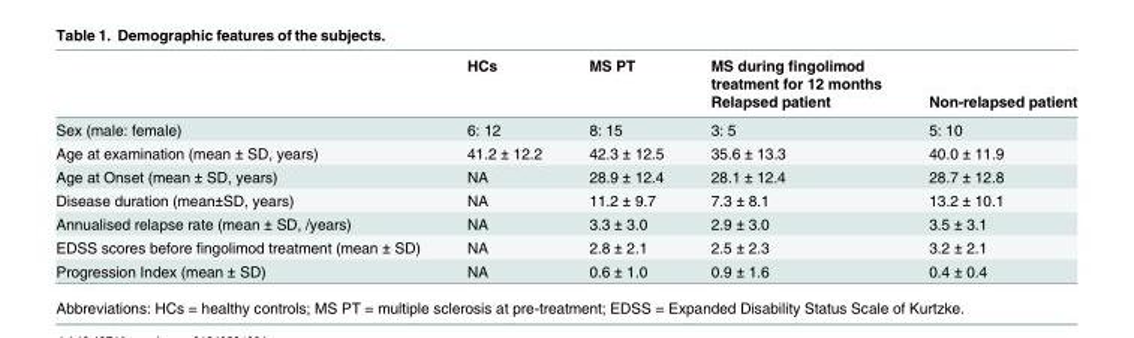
<table><thead><tr><td rowspan="2"></td><td rowspan="2">HCs</td><td rowspan="2">MS PT</td><td rowspan="2">MS during fingolimod treatment for 12 months Relapsed patient</td><td rowspan="2">Non-relapsed patient</td></tr><tr></tr></thead><tbody><tr><td>Sex (male: female)</td><td>6: 12</td><td>8: 15</td><td>3: 5</td><td>5: 10</td></tr><tr><td>Age at examination (mean ± SD, years)</td><td>41.2 ± 12.2</td><td>42.3 ± 12.5</td><td>35.6 ± 13.3</td><td>40.0 ± 11.9</td></tr><tr><td>Age at Onset (mean ± SD, years)</td><td>NA</td><td>28.9 ± 12.4</td><td>28.1 ± 12.4</td><td>28.7 ± 12.8</td></tr><tr><td>Disease duration (mean±SD, years)</td><td>NA</td><td>11.2 ± 9.7</td><td>7.3 ± 8.1</td><td>13.2 ± 10.1</td></tr><tr><td>Annualised relapse rate (mean ± SD, /years)</td><td>NA</td><td>3.3 ± 3.0</td><td>2.9 ± 3.0</td><td>3.5 ± 3.1</td></tr><tr><td>EDSS scores before fingolimod treatment (mean ± SD)</td><td>NA</td><td>2.8 ± 2.1</td><td>2.5 ± 2.3</td><td>3.2 ± 2.1</td></tr><tr><td>Progression Index (mean ± SD)</td><td>NA</td><td>0.6 ± 1.0</td><td>0.9 ± 1.6</td><td>0.4 ± 0.4</td></tr></tbody></table>